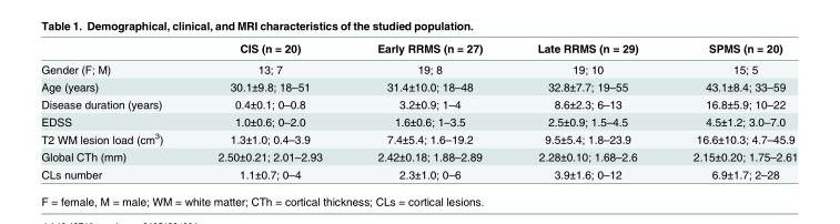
<table><thead><tr><td></td><td>CIS (n = 20)</td><td>Early RRMS (n = 27)</td><td>Late RRMS (n = 29)</td><td>SPMS (n = 20)</td></tr></thead><tbody><tr><td>Gender (F; M)</td><td>13; 7</td><td>19; 8</td><td>19; 10</td><td>15; 5</td></tr><tr><td>Age (years)</td><td>30.1±9.8; 18–51</td><td>31.4±10.0; 18–48</td><td>32.8±7.7; 19–55</td><td>43.1±8.4; 33–59</td></tr><tr><td>Disease duration (years)</td><td>0.4±0.1; 0–0.8</td><td>3.2±0.9; 1–4</td><td>8.6±2.3; 6–13</td><td>16.8±5.9; 10–22</td></tr><tr><td>EDSS</td><td>1.0±0.6; 0–2.0</td><td>1.6±0.6; 1–3.5</td><td>2.5±0.9; 1.5–4.5</td><td>4.5±1.2; 3.0–7.0</td></tr><tr><td>T2 WM lesion load (cm<sup>3</sup>)</td><td>1.3±1.0; 0.4–3.9</td><td>7.4±5.4; 1.6–19.2</td><td>9.5±5.4; 1.8–23.9</td><td>16.6±10.3; 4.7–45.9</td></tr><tr><td>Global CTh (mm)</td><td>2.50±0.21; 2.01–2.93</td><td>2.42±0.18; 1.88–2.89</td><td>2.28±0.10; 1.68–2.6</td><td>2.15±0.20; 1.75–2.61</td></tr><tr><td>CLs number</td><td>1.1±0.7; 0–4</td><td>2.3±1.0; 0–6</td><td>3.9±1.6; 0–12</td><td>6.9±1.7; 2–28</td></tr></tbody></table>